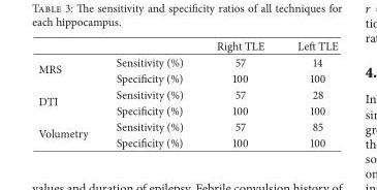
<table><thead><tr><td></td><td></td><td>Right TLE</td><td>Left TLE</td></tr></thead><tbody><tr><td rowspan="2">MRS</td><td>Sensitivity (%)</td><td>57</td><td>14</td></tr><tr><td>Specificity (%)</td><td>100</td><td>100</td></tr><tr><td rowspan="2">DTI</td><td>Sensitivity (%)</td><td>57</td><td>28</td></tr><tr><td>Specificity (%)</td><td>100</td><td>100</td></tr><tr><td rowspan="2">Volumetry</td><td>Sensitivity (%)</td><td>57</td><td>85</td></tr><tr><td>Specificity (%)</td><td>100</td><td>100</td></tr></tbody></table>